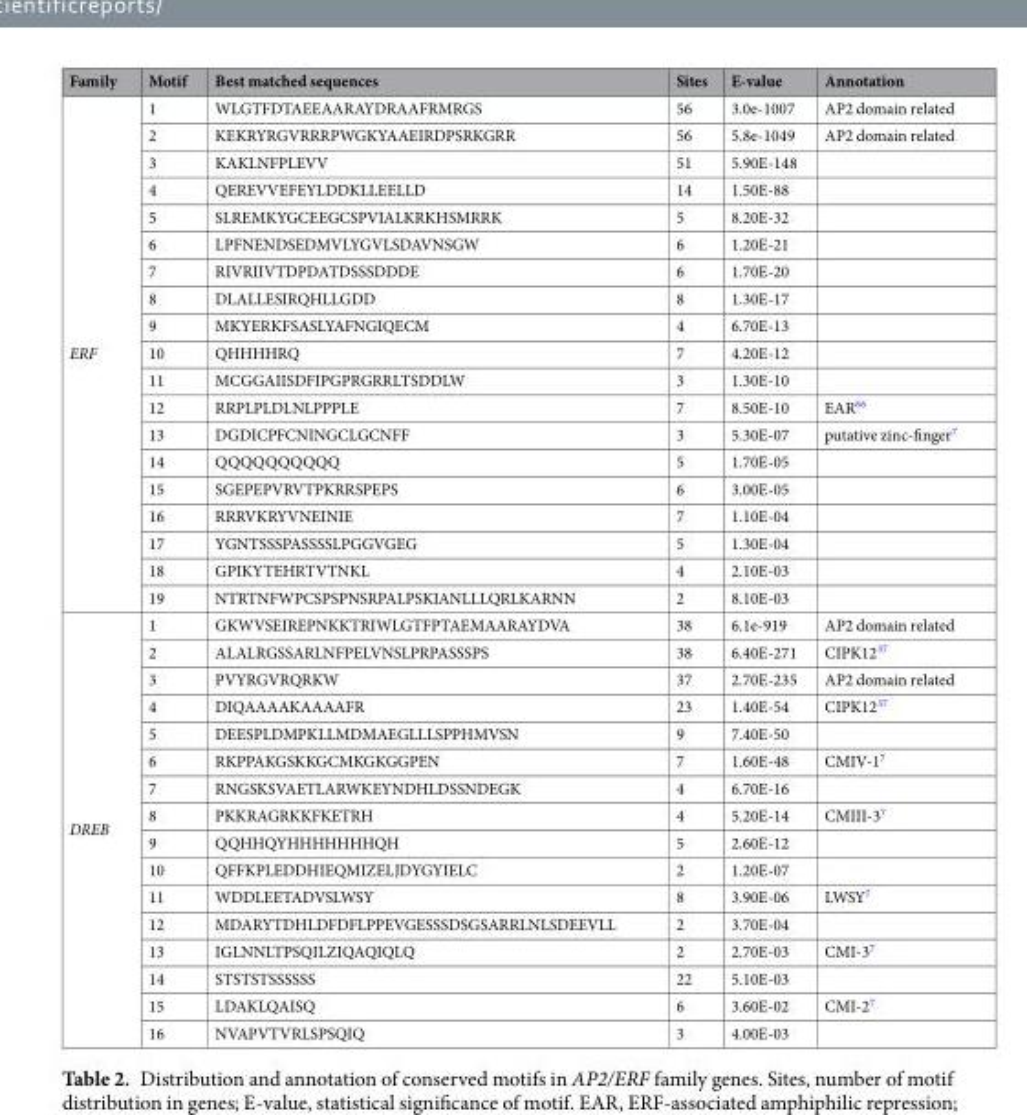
<table><thead><tr><td>Family</td><td>Motif</td><td>Best matched sequences</td><td>Sites</td><td>E-value</td><td>Annotation</td></tr></thead><tbody><tr><td rowspan="19">ERF</td><td>1</td><td>WLGTFDTAEEAARAYDRAAFRMRGS</td><td>56</td><td>3.0e-1007</td><td>AP2 domain related</td></tr><tr><td>2</td><td>KEKRYRGVRRRPWGKYAAEIRDPSRKGRR</td><td>56</td><td>5.8e-1049</td><td>AP2 domain related</td></tr><tr><td>3</td><td>KAKLNFPLEVV</td><td>51</td><td>5.90E-148</td><td></td></tr><tr><td>4</td><td>QEREVVEFEYLDDKLLEELLD</td><td>14</td><td>1.50E-88</td><td></td></tr><tr><td>5</td><td>SLREMKYGCEEGCSPVIALKRKHSMRRK</td><td>5</td><td>8.20E-32</td><td></td></tr><tr><td>6</td><td>LPFNENDSEDMVLYGVLSDAVNSGW</td><td>6</td><td>1.20E-21</td><td></td></tr><tr><td>7</td><td>RIVRIIVTDPDATDSSSDDDE</td><td>6</td><td>1.70E-20</td><td></td></tr><tr><td>8</td><td>DLALLESIRQHLLGDD</td><td>8</td><td>1.30E-17</td><td></td></tr><tr><td>9</td><td>MKYERKFSASLYAFNGIQECM</td><td>4</td><td>6.70E-13</td><td></td></tr><tr><td>10</td><td>QHHHHRQ</td><td>7</td><td>4.20E-12</td><td></td></tr><tr><td>11</td><td>MCGGAIISDFIPGPRGRRLTSDDLW</td><td>3</td><td>1.30E-10</td><td></td></tr><tr><td>12</td><td>RRPLPLDLNLPPPLE</td><td>7</td><td>8.50E-10</td><td>EAR<sup>66</sup></td></tr><tr><td>13</td><td>DGDICPFCNINGCLGCNFF</td><td>3</td><td>5.30E-07</td><td>putative zinc-finger<sup>7</sup></td></tr><tr><td>14</td><td>QQQQQQQQQQ</td><td>5</td><td>1.70E-05</td><td></td></tr><tr><td>15</td><td>SGEPEPVRVTPKRRSPEPS</td><td>6</td><td>3.00E-05</td><td></td></tr><tr><td>16</td><td>RRRVKRYVNEINIE</td><td>7</td><td>1.10E-04</td><td></td></tr><tr><td>17</td><td>YGNTSSSPASSSSLPGGVGEG</td><td>5</td><td>1.30E-04</td><td></td></tr><tr><td>18</td><td>GPIKYTEHRTVTNKL</td><td>4</td><td>2.10E-03</td><td></td></tr><tr><td>19</td><td>NTRTNFWPCSPSPNSRPALPSKIANLLLQRLKARNN</td><td>2</td><td>8.10E-03</td><td></td></tr><tr><td rowspan="16">DREB</td><td>1</td><td>GKWVSEIREPNKKTRIWLGTFPTAEMAARAYDVA</td><td>38</td><td>6.1e-919</td><td>AP2 domain related</td></tr><tr><td>2</td><td>ALALRGSSARLNFPELVNSLPRPASSSPS</td><td>38</td><td>6.40E-271</td><td>CIPK12<sup>37</sup></td></tr><tr><td>3</td><td>PVYRGVRQRKW</td><td>37</td><td>2.70E-235</td><td>AP2 domain related</td></tr><tr><td>4</td><td>DIQAAAAKAAAAFR</td><td>23</td><td>1.40E-54</td><td>CIPK12<sup>37</sup></td></tr><tr><td>5</td><td>DEESPLDMPKLLMDMAEGLLLSPPHMVSN</td><td>9</td><td>7.40E-50</td><td></td></tr><tr><td>6</td><td>RKPPAKGSKKGCMKGKGGPEN</td><td>7</td><td>1.60E-48</td><td>CMIV-1<sup>7</sup></td></tr><tr><td>7</td><td>RNGSKSVAETLARWKEYNDHLDSSNDEGK</td><td>4</td><td>6.70E-16</td><td></td></tr><tr><td>8</td><td>PKKRAGRKKFKETRH</td><td>4</td><td>5.20E-14</td><td>CMIII-3<sup>7</sup></td></tr><tr><td>9</td><td>QQHHQYHHHHHHHQH</td><td>5</td><td>2.60E-12</td><td></td></tr><tr><td>10</td><td>QFFKPLEDDHIEQMIZELJDYGYIELC</td><td>2</td><td>1.20E-07</td><td></td></tr><tr><td>11</td><td>WDDLEETADVSLWSY</td><td>8</td><td>3.90E-06</td><td>LWSY<sup>7</sup></td></tr><tr><td>12</td><td>MDARYTDHLDFDFLPPEVGESSSDSGSARRLNLSDEEVLL</td><td>2</td><td>3.70E-04</td><td></td></tr><tr><td>13</td><td>IGLNNLTPSQILZIQAQIQLQ</td><td>2</td><td>2.70E-03</td><td>CMI-3<sup>7</sup></td></tr><tr><td>14</td><td>STSTSTSSSSSS</td><td>22</td><td>5.10E-03</td><td></td></tr><tr><td>15</td><td>LDAKLQAISQ</td><td>6</td><td>3.60E-02</td><td>CMI-2<sup>7</sup></td></tr><tr><td>16</td><td>NVAPVTVRLSPSQIQ</td><td>3</td><td>4.00E-03</td><td></td></tr></tbody></table>